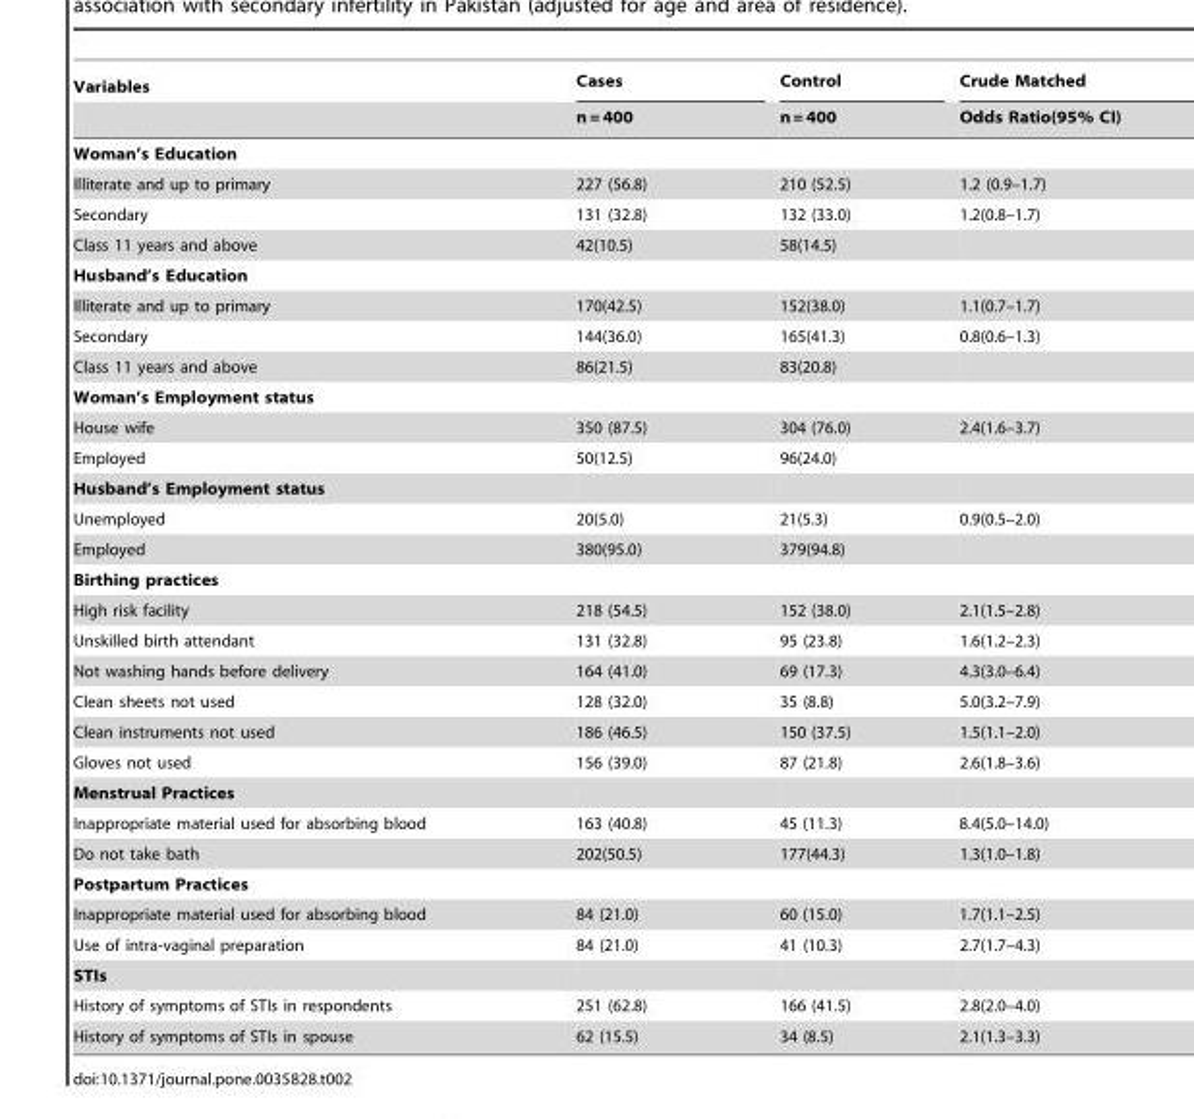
<table><thead><tr><td rowspan="2">Variables</td><td rowspan="2">Cases n = 400</td><td rowspan="2">Control n = 400</td><td rowspan="2">Crude Matched Odds Ratio(95% CI)</td></tr><tr></tr></thead><tbody><tr><td colspan="4">Woman’s Education</td></tr><tr><td>Illiterate and up to primary</td><td>227 (56.8)</td><td>210 (52.5)</td><td>1.2 (0.9–1.7)</td></tr><tr><td>Secondary</td><td>131 (32.8)</td><td>132 (33.0)</td><td>1.2(0.8–1.7)</td></tr><tr><td>Class 11 years and above</td><td>42(10.5)</td><td>58(14.5)</td><td></td></tr><tr><td colspan="4">Husband’s Education</td></tr><tr><td>Illiterate and up to primary</td><td>170(42.5)</td><td>152(38.0)</td><td>1.1(0.7–1.7)</td></tr><tr><td>Secondary</td><td>144(36.0)</td><td>165(41.3)</td><td>0.8(0.6–1.3)</td></tr><tr><td>Class 11 years and above</td><td>86(21.5)</td><td>83(20.8)</td><td></td></tr><tr><td colspan="4">Woman’s Employment status</td></tr><tr><td>House wife</td><td>350 (87.5)</td><td>304 (76.0)</td><td>2.4(1.6–3.7)</td></tr><tr><td>Employed</td><td>50(12.5)</td><td>96(24.0)</td><td></td></tr><tr><td colspan="4">Husband’s Employment status</td></tr><tr><td>Unemployed</td><td>20(5.0)</td><td>21(5.3)</td><td>0.9(0.5–2.0)</td></tr><tr><td>Employed</td><td>380(95.0)</td><td>379(94.8)</td><td></td></tr><tr><td colspan="4">Birthing practices</td></tr><tr><td>High risk facility</td><td>218 (54.5)</td><td>152 (38.0)</td><td>2.1(1.5–2.8)</td></tr><tr><td>Unskilled birth attendant</td><td>131 (32.8)</td><td>95 (23.8)</td><td>1.6(1.2–2.3)</td></tr><tr><td>Not washing hands before delivery</td><td>164 (41.0)</td><td>69 (17.3)</td><td>4.3(3.0–6.4)</td></tr><tr><td>Clean sheets not used</td><td>128 (32.0)</td><td>35 (8.8)</td><td>5.0(3.2–7.9)</td></tr><tr><td>Clean instruments not used</td><td>186 (46.5)</td><td>150 (37.5)</td><td>1.5(1.1–2.0)</td></tr><tr><td>Gloves not used</td><td>156 (39.0)</td><td>87 (21.8)</td><td>2.6(1.8–3.6)</td></tr><tr><td colspan="4">Menstrual Practices</td></tr><tr><td>Inappropriate material used for absorbing blood</td><td>163 (40.8)</td><td>45 (11.3)</td><td>8.4(5.0–14.0)</td></tr><tr><td>Do not take bath</td><td>202(50.5)</td><td>177(44.3)</td><td>1.3(1.0–1.8)</td></tr><tr><td colspan="4">Postpartum Practices</td></tr><tr><td>Inappropriate material used for absorbing blood</td><td>84 (21.0)</td><td>60 (15.0)</td><td>1.7(1.1–2.5)</td></tr><tr><td>Use of intra-vaginal preparation</td><td>84 (21.0)</td><td>41 (10.3)</td><td>2.7(1.7–4.3)</td></tr><tr><td colspan="4">STIs</td></tr><tr><td>History of symptoms of STIs in respondents</td><td>251 (62.8)</td><td>166 (41.5)</td><td>2.8(2.0–4.0)</td></tr><tr><td>History of symptoms of STIs in spouse</td><td>62 (15.5)</td><td>34 (8.5)</td><td>2.1(1.3–3.3)</td></tr></tbody></table>